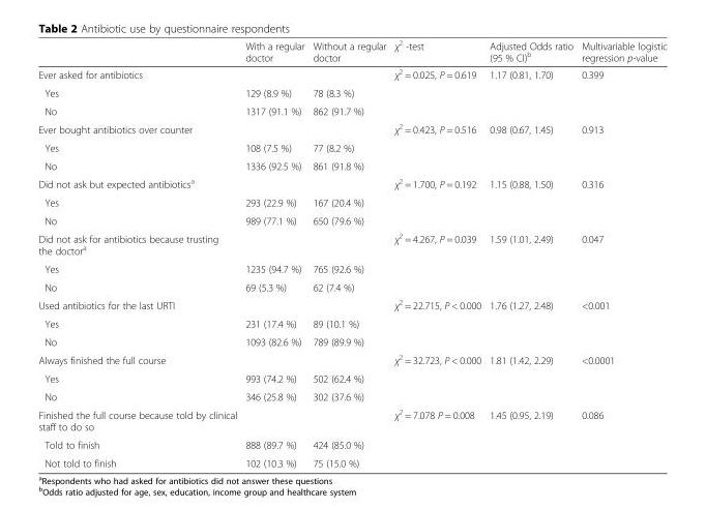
<table><thead><tr><td></td><td>With a regular doctor</td><td>Without a regular doctor</td><td>χ<sup>2</sup> -test</td><td>Adjusted Odds ratio (95 % CI)<sup>b</sup></td><td>Multivariable logistic regression p-value</td></tr></thead><tbody><tr><td>Ever asked for antibiotics</td><td></td><td></td><td>χ<sup>2</sup> = 0.025, P = 0.619</td><td>1.17 (0.81, 1.70)</td><td>0.399</td></tr><tr><td>Yes</td><td>129 (8.9 %)</td><td>78 (8.3 %)</td><td></td><td></td><td></td></tr><tr><td>No</td><td>1317 (91.1 %)</td><td>862 (91.7 %)</td><td></td><td></td><td></td></tr><tr><td>Ever bought antibiotics over counter</td><td></td><td></td><td>χ<sup>2</sup> = 0.423, P = 0.516</td><td>0.98 (0.67, 1.45)</td><td>0.913</td></tr><tr><td>Yes</td><td>108 (7.5 %)</td><td>77 (8.2 %)</td><td></td><td></td><td></td></tr><tr><td>No</td><td>1336 (92.5 %)</td><td>861 (91.8 %)</td><td></td><td></td><td></td></tr><tr><td>Did not ask but expected antibiotics<sup>a</sup></td><td></td><td></td><td>χ<sup>2</sup> = 1.700, P = 0.192</td><td>1.15 (0.88, 1.50)</td><td>0.316</td></tr><tr><td>Yes</td><td>293 (22.9 %)</td><td>167 (20.4 %)</td><td></td><td></td><td></td></tr><tr><td>No</td><td>989 (77.1 %)</td><td>650 (79.6 %)</td><td></td><td></td><td></td></tr><tr><td>Did not ask for antibiotics because trusting the doctor<sup>a</sup></td><td></td><td></td><td>χ<sup>2</sup> = 4.267, P = 0.039</td><td>1.59 (1.01, 2.49)</td><td>0.047</td></tr><tr><td>Yes</td><td>1235 (94.7 %)</td><td>765 (92.6 %)</td><td></td><td></td><td></td></tr><tr><td>No</td><td>69 (5.3 %)</td><td>62 (7.4 %)</td><td></td><td></td><td></td></tr><tr><td>Used antibiotics for the last URTI</td><td></td><td></td><td>χ<sup>2</sup> = 22.715, P &lt; 0.000</td><td>1.76 (1.27, 2.48)</td><td>&lt;0.001</td></tr><tr><td>Yes</td><td>231 (17.4 %)</td><td>89 (10.1 %)</td><td></td><td></td><td></td></tr><tr><td>No</td><td>1093 (82.6 %)</td><td>789 (89.9 %)</td><td></td><td></td><td></td></tr><tr><td>Always finished the full course</td><td></td><td></td><td>χ<sup>2</sup> = 32.723, P &lt; 0.000</td><td>1.81 (1.42, 2.29)</td><td>&lt;0.0001</td></tr><tr><td>Yes</td><td>993 (74.2 %)</td><td>502 (62.4 %)</td><td></td><td></td><td></td></tr><tr><td>No</td><td>346 (25.8 %)</td><td>302 (37.6 %)</td><td></td><td></td><td></td></tr><tr><td>Finished the full course because told by clinical staff to do so</td><td></td><td></td><td>χ<sup>2</sup> = 7.078 P = 0.008</td><td>1.45 (0.95, 2.19)</td><td>0.086</td></tr><tr><td>Told to finish</td><td>888 (89.7 %)</td><td>424 (85.0 %)</td><td></td><td></td><td></td></tr><tr><td>Not told to finish</td><td>102 (10.3 %)</td><td>75 (15.0 %)</td><td></td><td></td><td></td></tr></tbody></table>